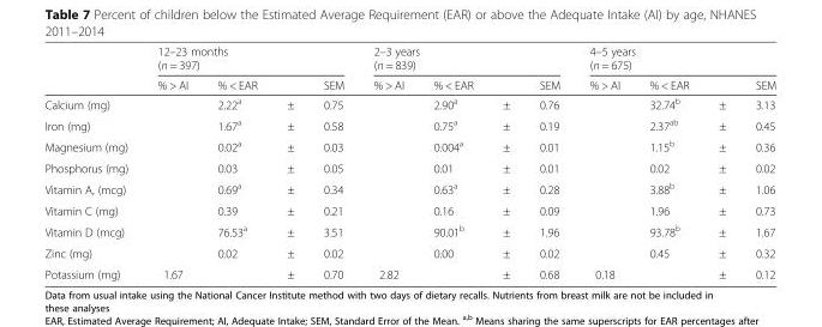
<table><thead><tr><td rowspan="2"></td><td colspan="4">12–23 months (n = 397)</td><td colspan="4">2–3 years (n = 839)</td><td colspan="4">4–5 years (n = 675)</td></tr><tr><td>% &gt; AI</td><td>% &lt; EAR</td><td></td><td>SEM</td><td>% &gt; AI</td><td>% &lt; EAR</td><td></td><td>SEM</td><td>% &gt; AI</td><td>% &lt; EAR</td><td></td><td>SEM</td></tr></thead><tbody><tr><td>Calcium (mg)</td><td></td><td>2.22<sup>a</sup></td><td>±</td><td>0.75</td><td></td><td>2.90<sup>a</sup></td><td>±</td><td>0.76</td><td></td><td>32.74<sup>b</sup></td><td>±</td><td>3.13</td></tr><tr><td>Iron (mg)</td><td></td><td>1.67<sup>a</sup></td><td>±</td><td>0.58</td><td></td><td>0.75<sup>a</sup></td><td>±</td><td>0.19</td><td></td><td>2.37<sup>ab</sup></td><td>±</td><td>0.45</td></tr><tr><td>Magnesium (mg)</td><td></td><td>0.02<sup>a</sup></td><td>±</td><td>0.03</td><td></td><td>0.004<sup>a</sup></td><td>±</td><td>0.01</td><td></td><td>1.15<sup>b</sup></td><td>±</td><td>0.36</td></tr><tr><td>Phosphorus (mg)</td><td></td><td>0.03</td><td>±</td><td>0.05</td><td></td><td>0.01</td><td>±</td><td>0.01</td><td></td><td>0.02</td><td>±</td><td>0.02</td></tr><tr><td>Vitamin A, (mcg)</td><td></td><td>0.69<sup>a</sup></td><td>±</td><td>0.34</td><td></td><td>0.63<sup>a</sup></td><td>±</td><td>0.28</td><td></td><td>3.88<sup>b</sup></td><td>±</td><td>1.06</td></tr><tr><td>Vitamin C (mg)</td><td></td><td>0.39</td><td>±</td><td>0.21</td><td></td><td>0.16</td><td>±</td><td>0.09</td><td></td><td>1.96</td><td>±</td><td>0.73</td></tr><tr><td>Vitamin D (mcg)</td><td></td><td>76.53<sup>a</sup></td><td>±</td><td>3.51</td><td></td><td>90.01<sup>b</sup></td><td>±</td><td>1.96</td><td></td><td>93.78<sup>b</sup></td><td>±</td><td>1.67</td></tr><tr><td>Zinc (mg)</td><td></td><td>0.02</td><td>±</td><td>0.02</td><td></td><td>0.00</td><td>±</td><td>0.02</td><td></td><td>0.45</td><td>±</td><td>0.32</td></tr><tr><td>Potassium (mg)</td><td>1.67</td><td></td><td>±</td><td>0.70</td><td>2.82</td><td></td><td>±</td><td>0.68</td><td>0.18</td><td></td><td>±</td><td>0.12</td></tr></tbody></table>